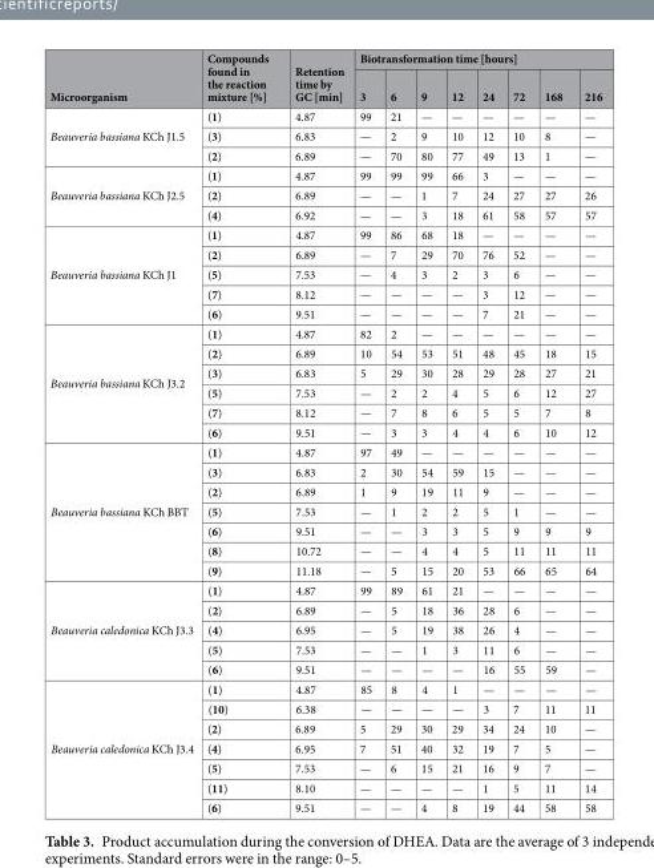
<table><thead><tr><td rowspan="2">Microorganism</td><td rowspan="2">Compounds found in the reaction mixture [%]</td><td rowspan="2">Retention time by GC [min]</td><td colspan="8">Biotransformation time [hours]</td></tr><tr><td>3</td><td>6</td><td>9</td><td>12</td><td>24</td><td>72</td><td>168</td><td>216</td></tr></thead><tbody><tr><td rowspan="3">Beauveria bassiana KCh J1.5</td><td>(1)</td><td>4.87</td><td>99</td><td>21</td><td>—</td><td>—</td><td>—</td><td>—</td><td>—</td><td>—</td></tr><tr><td>(3)</td><td>6.83</td><td>—</td><td>2</td><td>9</td><td>10</td><td>12</td><td>10</td><td>8</td><td>—</td></tr><tr><td>(2)</td><td>6.89</td><td>—</td><td>70</td><td>80</td><td>77</td><td>49</td><td>13</td><td>1</td><td>—</td></tr><tr><td rowspan="3">Beauveria bassiana KCh J2.5</td><td>(1)</td><td>4.87</td><td>99</td><td>99</td><td>99</td><td>66</td><td>3</td><td>—</td><td>—</td><td>—</td></tr><tr><td>(2)</td><td>6.89</td><td>—</td><td>—</td><td>1</td><td>7</td><td>24</td><td>27</td><td>27</td><td>26</td></tr><tr><td>(4)</td><td>6.92</td><td>—</td><td>—</td><td>3</td><td>18</td><td>61</td><td>58</td><td>57</td><td>57</td></tr><tr><td rowspan="5">Beauveria bassiana KCh J1</td><td>(1)</td><td>4.87</td><td>99</td><td>86</td><td>68</td><td>18</td><td>—</td><td>—</td><td>—</td><td>—</td></tr><tr><td>(2)</td><td>6.89</td><td>—</td><td>7</td><td>29</td><td>70</td><td>76</td><td>52</td><td>—</td><td>—</td></tr><tr><td>(5)</td><td>7.53</td><td>—</td><td>4</td><td>3</td><td>2</td><td>3</td><td>6</td><td>—</td><td>—</td></tr><tr><td>(7)</td><td>8.12</td><td>—</td><td>—</td><td>—</td><td>—</td><td>3</td><td>12</td><td>—</td><td>—</td></tr><tr><td>(6)</td><td>9.51</td><td>—</td><td>—</td><td>—</td><td>—</td><td>7</td><td>21</td><td>—</td><td>—</td></tr><tr><td rowspan="6">Beauveria bassiana KCh J3.2</td><td>(1)</td><td>4.87</td><td>82</td><td>2</td><td>—</td><td>—</td><td>—</td><td>—</td><td>—</td><td>—</td></tr><tr><td>(2)</td><td>6.89</td><td>10</td><td>54</td><td>53</td><td>51</td><td>48</td><td>45</td><td>18</td><td>15</td></tr><tr><td>(3)</td><td>6.83</td><td>5</td><td>29</td><td>30</td><td>28</td><td>29</td><td>28</td><td>27</td><td>21</td></tr><tr><td>(5)</td><td>7.53</td><td>—</td><td>2</td><td>2</td><td>4</td><td>5</td><td>6</td><td>12</td><td>27</td></tr><tr><td>(7)</td><td>8.12</td><td>—</td><td>7</td><td>8</td><td>6</td><td>5</td><td>5</td><td>7</td><td>8</td></tr><tr><td>(6)</td><td>9.51</td><td>—</td><td>3</td><td>3</td><td>4</td><td>4</td><td>6</td><td>10</td><td>12</td></tr><tr><td rowspan="7">Beauveria bassiana KCh BBT</td><td>(1)</td><td>4.87</td><td>97</td><td>49</td><td>—</td><td>—</td><td>—</td><td>—</td><td>—</td><td>—</td></tr><tr><td>(3)</td><td>6.83</td><td>2</td><td>30</td><td>54</td><td>59</td><td>15</td><td>—</td><td>—</td><td>—</td></tr><tr><td>(2)</td><td>6.89</td><td>1</td><td>9</td><td>19</td><td>11</td><td>9</td><td>—</td><td>—</td><td>—</td></tr><tr><td>(5)</td><td>7.53</td><td>—</td><td>1</td><td>2</td><td>2</td><td>5</td><td>1</td><td>—</td><td>—</td></tr><tr><td>(6)</td><td>9.51</td><td>—</td><td>—</td><td>3</td><td>3</td><td>5</td><td>9</td><td>9</td><td>9</td></tr><tr><td>(8)</td><td>10.72</td><td>—</td><td>—</td><td>4</td><td>4</td><td>5</td><td>11</td><td>11</td><td>11</td></tr><tr><td>(9)</td><td>11.18</td><td>—</td><td>5</td><td>15</td><td>20</td><td>53</td><td>66</td><td>65</td><td>64</td></tr><tr><td rowspan="5">Beauveria caledonica KCh J3.3</td><td>(1)</td><td>4.87</td><td>99</td><td>89</td><td>61</td><td>21</td><td>—</td><td>—</td><td>—</td><td>—</td></tr><tr><td>(2)</td><td>6.89</td><td>—</td><td>5</td><td>18</td><td>36</td><td>28</td><td>6</td><td>—</td><td>—</td></tr><tr><td>(4)</td><td>6.95</td><td>—</td><td>5</td><td>19</td><td>38</td><td>26</td><td>4</td><td>—</td><td>—</td></tr><tr><td>(5)</td><td>7.53</td><td>—</td><td>—</td><td>1</td><td>3</td><td>11</td><td>6</td><td>—</td><td>—</td></tr><tr><td>(6)</td><td>9.51</td><td>—</td><td>—</td><td>—</td><td>—</td><td>16</td><td>55</td><td>59</td><td>—</td></tr><tr><td rowspan="7">Beauveria caledonica KCh J3.4</td><td>(1)</td><td>4.87</td><td>85</td><td>8</td><td>4</td><td>1</td><td>—</td><td>—</td><td>—</td><td>—</td></tr><tr><td>(10)</td><td>6.38</td><td>—</td><td>—</td><td>—</td><td>—</td><td>3</td><td>7</td><td>11</td><td>11</td></tr><tr><td>(2)</td><td>6.89</td><td>5</td><td>29</td><td>30</td><td>29</td><td>34</td><td>24</td><td>10</td><td>—</td></tr><tr><td>(4)</td><td>6.95</td><td>7</td><td>51</td><td>40</td><td>32</td><td>19</td><td>7</td><td>5</td><td>—</td></tr><tr><td>(5)</td><td>7.53</td><td>—</td><td>6</td><td>15</td><td>21</td><td>16</td><td>9</td><td>7</td><td>—</td></tr><tr><td>(11)</td><td>8.10</td><td>—</td><td>—</td><td>—</td><td>—</td><td>1</td><td>5</td><td>11</td><td>14</td></tr><tr><td>(6)</td><td>9.51</td><td>—</td><td>—</td><td>4</td><td>8</td><td>19</td><td>44</td><td>58</td><td>58</td></tr></tbody></table>